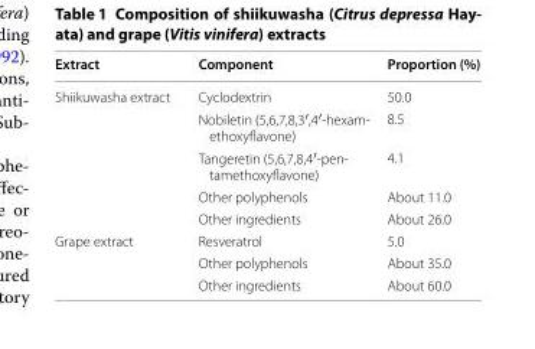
<table><thead><tr><td>Extract</td><td>Component</td><td>Proportion (%)</td></tr></thead><tbody><tr><td rowspan="5">Shiikuwasha extract</td><td>Cyclodextrin</td><td>50.0</td></tr><tr><td>Nobiletin (5,6,7,8,3′,4′-hexam- ethoxyflavone)</td><td>8.5</td></tr><tr><td>Tangeretin (5,6,7,8,4′-pen- tamethoxyflavone)</td><td>4.1</td></tr><tr><td>Other polyphenols</td><td>About 11.0</td></tr><tr><td>Other ingredients</td><td>About 26.0</td></tr><tr><td rowspan="3">Grape extract</td><td>Resveratrol</td><td>5.0</td></tr><tr><td>Other polyphenols</td><td>About 35.0</td></tr><tr><td>Other ingredients</td><td>About 60.0</td></tr></tbody></table>